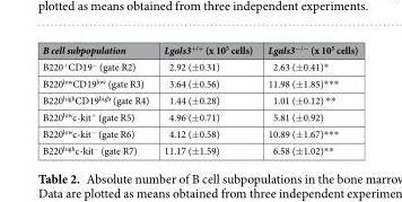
<table><thead><tr><td>B cell subpopulation</td><td>Lgals3<sup>+/+</sup> (x 10<sup>5</sup> cells)</td><td>Lgals3<sup>−/−</sup> (x 10<sup>5</sup> cells)</td></tr></thead><tbody><tr><td>B220<sup>+</sup>CD19<sup>−</sup> (gate R2)</td><td>2.92 (±0.31)</td><td>2.63 (±0.41)*</td></tr><tr><td>B220<sup>low</sup>CD19<sup>low</sup> (gate R3)</td><td>3.64 (±0.56)</td><td>11.98 (±1.85)***</td></tr><tr><td>B220<sup>high</sup>CD19<sup>high</sup> (gate R4)</td><td>1.44 (±0.28)</td><td>1.01 (±0.12) **</td></tr><tr><td>B220<sup>low</sup>c-kit<sup>+</sup> (gate R5)</td><td>4.96 (±0.71)</td><td>5.81 (±0.92)</td></tr><tr><td>B220<sup>low</sup>c-kit<sup>−</sup> (gate R6)</td><td>4.12 (±0.58)</td><td>10.89 (±1.67)***</td></tr><tr><td>B220<sup>high</sup>c-kit<sup>−</sup> (gate R7)</td><td>11.17 (±1.59)</td><td>6.58 (±1.02)**</td></tr></tbody></table>